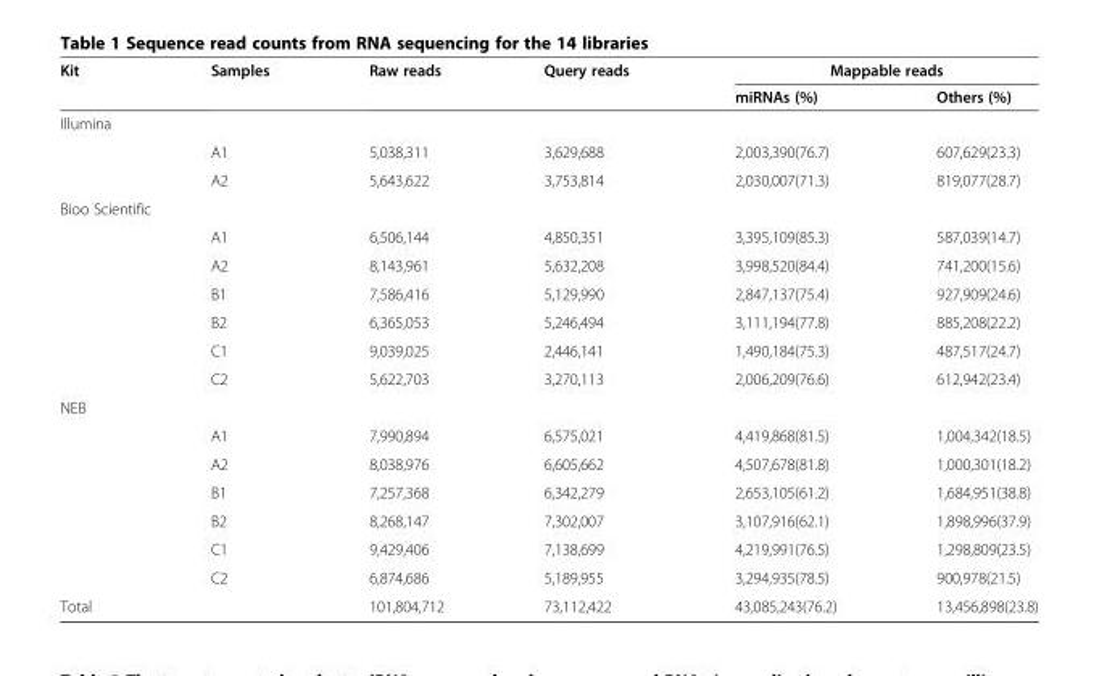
<table><thead><tr><td rowspan="2">Kit</td><td rowspan="2">Samples</td><td rowspan="2">Raw reads</td><td rowspan="2">Query reads</td><td colspan="2">Mappable reads</td></tr><tr><td>miRNAs (%)</td><td>Others (%)</td></tr></thead><tbody><tr><td colspan="6">Illumina</td></tr><tr><td rowspan="2"></td><td>A1</td><td>5,038,311</td><td>3,629,688</td><td>2,003,390(76.7)</td><td>607,629(23.3)</td></tr><tr><td>A2</td><td>5,643,622</td><td>3,753,814</td><td>2,030,007(71.3)</td><td>819,077(28.7)</td></tr><tr><td colspan="6">Bioo Scientific</td></tr><tr><td rowspan="6"></td><td>A1</td><td>6,506,144</td><td>4,850,351</td><td>3,395,109(85.3)</td><td>587,039(14.7)</td></tr><tr><td>A2</td><td>8,143,961</td><td>5,632,208</td><td>3,998,520(84.4)</td><td>741,200(15.6)</td></tr><tr><td>B1</td><td>7,586,416</td><td>5,129,990</td><td>2,847,137(75.4)</td><td>927,909(24.6)</td></tr><tr><td>B2</td><td>6,365,053</td><td>5,246,494</td><td>3,111,194(77.8)</td><td>885,208(22.2)</td></tr><tr><td>C1</td><td>9,039,025</td><td>2,446,141</td><td>1,490,184(75.3)</td><td>487,517(24.7)</td></tr><tr><td>C2</td><td>5,622,703</td><td>3,270,113</td><td>2,006,209(76.6)</td><td>612,942(23.4)</td></tr><tr><td colspan="6">NEB</td></tr><tr><td rowspan="6"></td><td>A1</td><td>7,990,894</td><td>6,575,021</td><td>4,419,868(81.5)</td><td>1,004,342(18.5)</td></tr><tr><td>A2</td><td>8,038,976</td><td>6,605,662</td><td>4,507,678(81.8)</td><td>1,000,301(18.2)</td></tr><tr><td>B1</td><td>7,257,368</td><td>6,342,279</td><td>2,653,105(61.2)</td><td>1,684,951(38.8)</td></tr><tr><td>B2</td><td>8,268,147</td><td>7,302,007</td><td>3,107,916(62.1)</td><td>1,898,996(37.9)</td></tr><tr><td>C1</td><td>9,429,406</td><td>7,138,699</td><td>4,219,991(76.5)</td><td>1,298,809(23.5)</td></tr><tr><td>C2</td><td>6,874,686</td><td>5,189,955</td><td>3,294,935(78.5)</td><td>900,978(21.5)</td></tr><tr><td>Total</td><td></td><td>101,804,712</td><td>73,112,422</td><td>43,085,243(76.2)</td><td>13,456,898(23.8)</td></tr></tbody></table>